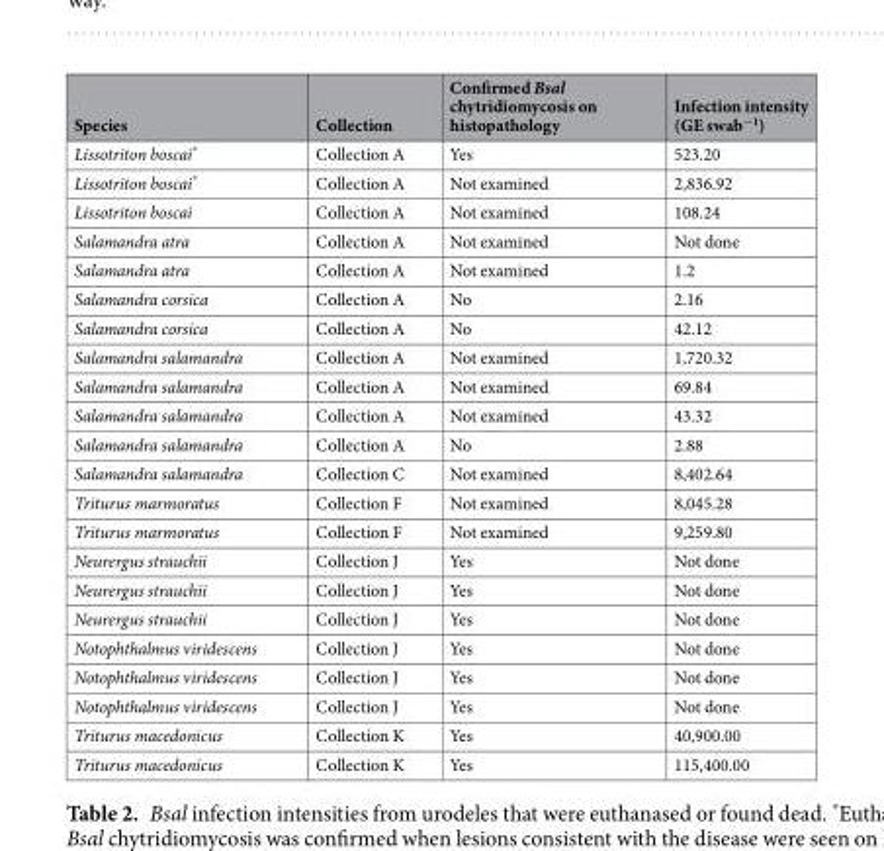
<table><thead><tr><td>Species</td><td>Collection</td><td>Confirmed Bsal chytridiomycosis on histopathology</td><td>Infection intensity (GE swab<sup>−1</sup>)</td></tr></thead><tbody><tr><td>Lissotriton boscai*</td><td>Collection A</td><td>Yes</td><td>523.20</td></tr><tr><td>Lissotriton boscai*</td><td>Collection A</td><td>Not examined</td><td>2,836.92</td></tr><tr><td>Lissotriton boscai</td><td>Collection A</td><td>Not examined</td><td>108.24</td></tr><tr><td>Salamandra atra</td><td>Collection A</td><td>Not examined</td><td>Not done</td></tr><tr><td>Salamandra atra</td><td>Collection A</td><td>Not examined</td><td>1.2</td></tr><tr><td>Salamandra corsica</td><td>Collection A</td><td>No</td><td>2.16</td></tr><tr><td>Salamandra corsica</td><td>Collection A</td><td>No</td><td>42.12</td></tr><tr><td>Salamandra salamandra</td><td>Collection A</td><td>Not examined</td><td>1,720.32</td></tr><tr><td>Salamandra salamandra</td><td>Collection A</td><td>Not examined</td><td>69.84</td></tr><tr><td>Salamandra salamandra</td><td>Collection A</td><td>Not examined</td><td>43.32</td></tr><tr><td>Salamandra salamandra</td><td>Collection A</td><td>No</td><td>2.88</td></tr><tr><td>Salamandra salamandra</td><td>Collection C</td><td>Not examined</td><td>8,402.64</td></tr><tr><td>Triturus marmoratus</td><td>Collection F</td><td>Not examined</td><td>8,045.28</td></tr><tr><td>Triturus marmoratus</td><td>Collection F</td><td>Not examined</td><td>9,259.80</td></tr><tr><td>Neurergus strauchii</td><td>Collection J</td><td>Yes</td><td>Not done</td></tr><tr><td>Neurergus strauchii</td><td>Collection J</td><td>Yes</td><td>Not done</td></tr><tr><td>Neurergus strauchii</td><td>Collection J</td><td>Yes</td><td>Not done</td></tr><tr><td>Notophthalmus viridescens</td><td>Collection J</td><td>Yes</td><td>Not done</td></tr><tr><td>Notophthalmus viridescens</td><td>Collection J</td><td>Yes</td><td>Not done</td></tr><tr><td>Notophthalmus viridescens</td><td>Collection J</td><td>Yes</td><td>Not done</td></tr><tr><td>Triturus macedonicus</td><td>Collection K</td><td>Yes</td><td>40,900.00</td></tr><tr><td>Triturus macedonicus</td><td>Collection K</td><td>Yes</td><td>115,400.00</td></tr></tbody></table>